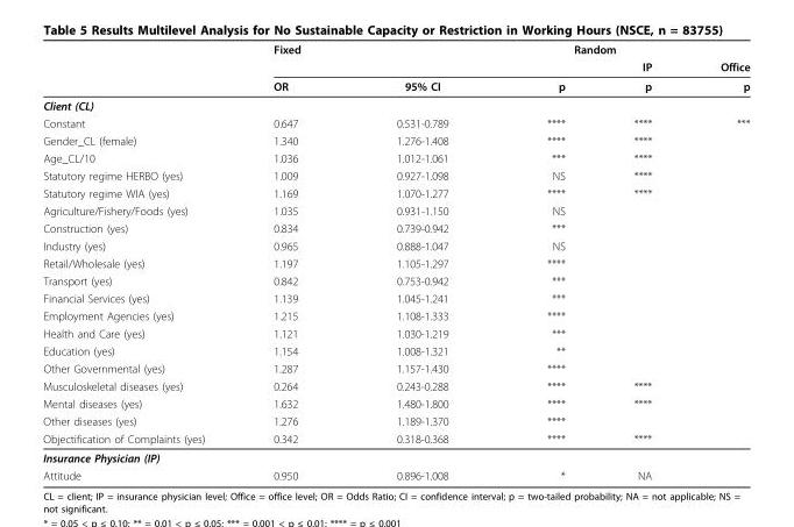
<table><thead><tr><td rowspan="3"></td><td colspan="3">Fixed</td><td colspan="2">Random</td></tr><tr><td rowspan="2">OR</td><td rowspan="2">95% CI</td><td rowspan="2">p</td><td rowspan="2">IP p</td><td rowspan="2">Office p</td></tr><tr></tr></thead><tbody><tr><td colspan="6">Client (CL)</td></tr><tr><td>Constant</td><td>0.647</td><td>0.531-0.789</td><td>****</td><td>****</td><td>***</td></tr><tr><td>Gender_CL (female)</td><td>1.340</td><td>1.276-1.408</td><td>****</td><td>****</td><td></td></tr><tr><td>Age_CL/10</td><td>1.036</td><td>1.012-1.061</td><td>***</td><td>****</td><td></td></tr><tr><td>Statutory regime HERBO (yes)</td><td>1.009</td><td>0.927-1.098</td><td>NS</td><td>****</td><td></td></tr><tr><td>Statutory regime WIA (yes)</td><td>1.169</td><td>1.070-1.277</td><td>****</td><td>****</td><td></td></tr><tr><td>Agriculture/Fishery/Foods (yes)</td><td>1.035</td><td>0.931-1.150</td><td>NS</td><td></td><td></td></tr><tr><td>Construction (yes)</td><td>0.834</td><td>0.739-0.942</td><td>***</td><td></td><td></td></tr><tr><td>Industry (yes)</td><td>0.965</td><td>0.888-1.047</td><td>NS</td><td></td><td></td></tr><tr><td>Retail/Wholesale (yes)</td><td>1.197</td><td>1.105-1.297</td><td>****</td><td></td><td></td></tr><tr><td>Transport (yes)</td><td>0.842</td><td>0.753-0.942</td><td>***</td><td></td><td></td></tr><tr><td>Financial Services (yes)</td><td>1.139</td><td>1.045-1.241</td><td>***</td><td></td><td></td></tr><tr><td>Employment Agencies (yes)</td><td>1.215</td><td>1.108-1.333</td><td>****</td><td></td><td></td></tr><tr><td>Health and Care (yes)</td><td>1.121</td><td>1.030-1.219</td><td>***</td><td></td><td></td></tr><tr><td>Education (yes)</td><td>1.154</td><td>1.008-1.321</td><td>**</td><td></td><td></td></tr><tr><td>Other Governmental (yes)</td><td>1.287</td><td>1.157-1.430</td><td>****</td><td></td><td></td></tr><tr><td>Musculoskeletal diseases (yes)</td><td>0.264</td><td>0.243-0.288</td><td>****</td><td>****</td><td></td></tr><tr><td>Mental diseases (yes)</td><td>1.632</td><td>1.480-1.800</td><td>****</td><td>****</td><td></td></tr><tr><td>Other diseases (yes)</td><td>1.276</td><td>1.189-1.370</td><td>****</td><td></td><td></td></tr><tr><td>Objectification of Complaints (yes)</td><td>0.342</td><td>0.318-0.368</td><td>****</td><td>****</td><td></td></tr><tr><td colspan="6">Insurance Physician (IP)</td></tr><tr><td>Attitude</td><td>0.950</td><td>0.896-1.008</td><td>*</td><td>NA</td><td></td></tr></tbody></table>